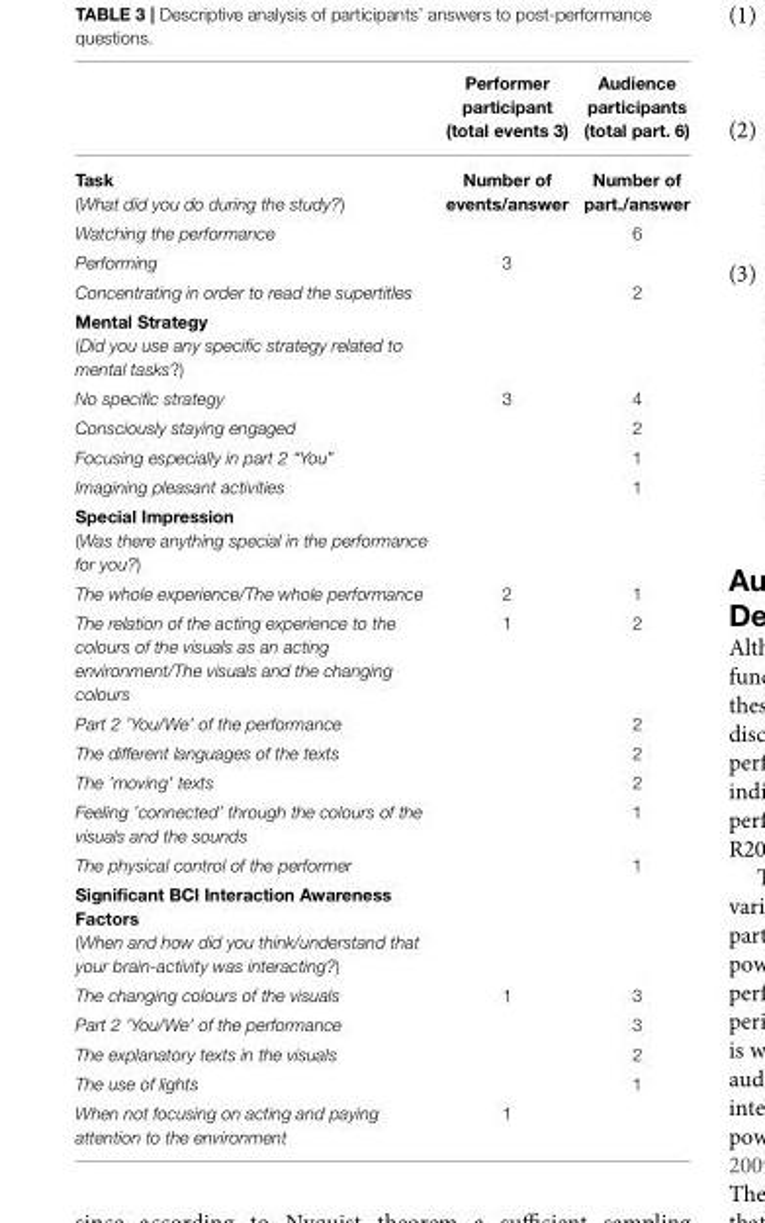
<table><thead><tr><td></td><td>Performer participant (total events 3)</td><td>Audience participants (total part. 6)</td></tr></thead><tbody><tr><td>Task (What did you do during the study?)</td><td>Number of events/answer</td><td>Number of part./answer</td></tr><tr><td>Watching the performance</td><td></td><td>6</td></tr><tr><td>Performing</td><td>3</td><td></td></tr><tr><td>Concentrating in order to read the supertitles</td><td></td><td>2</td></tr><tr><td colspan="3">Mental Strategy (Did you use any specific strategy related to mental tasks?)</td></tr><tr><td>No specific strategy</td><td>3</td><td>4</td></tr><tr><td>Consciously staying engaged</td><td></td><td>2</td></tr><tr><td>Focusing especially in part 2 “You”</td><td></td><td>1</td></tr><tr><td>Imagining pleasant activities</td><td></td><td>1</td></tr><tr><td colspan="3">Special Impression (Was there anything special in the performance for you?)</td></tr><tr><td>The whole experience/The whole performance</td><td>2</td><td>1</td></tr><tr><td>The relation of the acting experience to the colours of the visuals as an acting environment/The visuals and the changing colours</td><td>1</td><td>2</td></tr><tr><td>Part 2 ’You/We’ of the performance</td><td></td><td>2</td></tr><tr><td>The different languages of the texts</td><td></td><td>2</td></tr><tr><td>The ’moving’ texts</td><td></td><td>2</td></tr><tr><td>Feeling ’connected’ through the colours of the visuals and the sounds</td><td></td><td>1</td></tr><tr><td>The physical control of the performer</td><td></td><td>1</td></tr><tr><td colspan="3">Significant BCI Interaction Awareness Factors (When and how did you think/understand that your brain-activity was interacting?)</td></tr><tr><td>The changing colours of the visuals</td><td>1</td><td>3</td></tr><tr><td>Part 2 ’You/We’ of the performance</td><td></td><td>3</td></tr><tr><td>The explanatory texts in the visuals</td><td></td><td>2</td></tr><tr><td>The use of lights</td><td></td><td>1</td></tr><tr><td>When not focusing on acting and paying attention to the environment</td><td>1</td><td></td></tr></tbody></table>